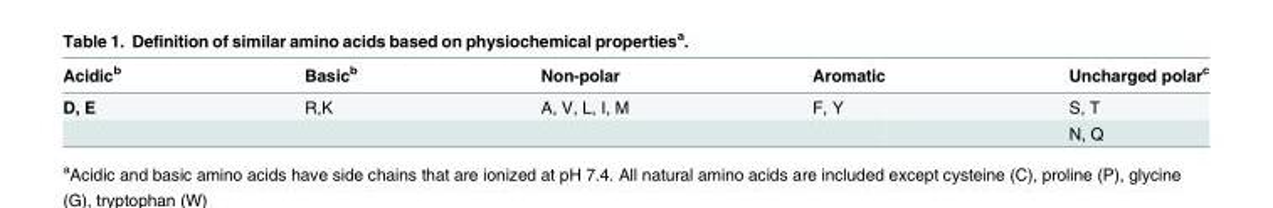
<table><thead><tr><td>Acidic<sup>b</sup></td><td>Basic<sup>b</sup></td><td>Non-polar</td><td>Aromatic</td><td>Uncharged polar<sup>c</sup></td></tr></thead><tbody><tr><td rowspan="2">D, E</td><td>R,K</td><td>A, V, L, I, M</td><td>F, Y</td><td>S, T</td></tr><tr><td></td><td></td><td></td><td>N, Q</td></tr></tbody></table>